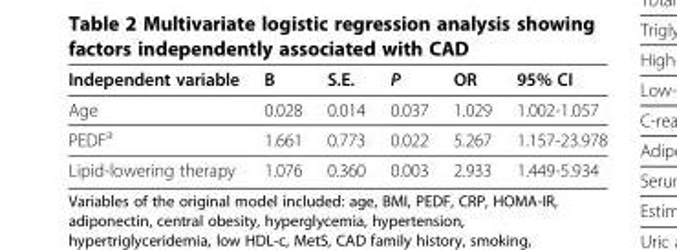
<table><thead><tr><td>Independent variable</td><td>B</td><td>S.E.</td><td>P</td><td>OR</td><td>95% CI</td></tr></thead><tbody><tr><td>Age</td><td>0.028</td><td>0.014</td><td>0.037</td><td>1.029</td><td>1.002-1.057</td></tr><tr><td>PEDF<sup>a</sup></td><td>1.661</td><td>0.773</td><td>0.022</td><td>5.267</td><td>1.157-23.978</td></tr><tr><td>Lipid-lowering therapy</td><td>1.076</td><td>0.360</td><td>0.003</td><td>2.933</td><td>1.449-5.934</td></tr></tbody></table>